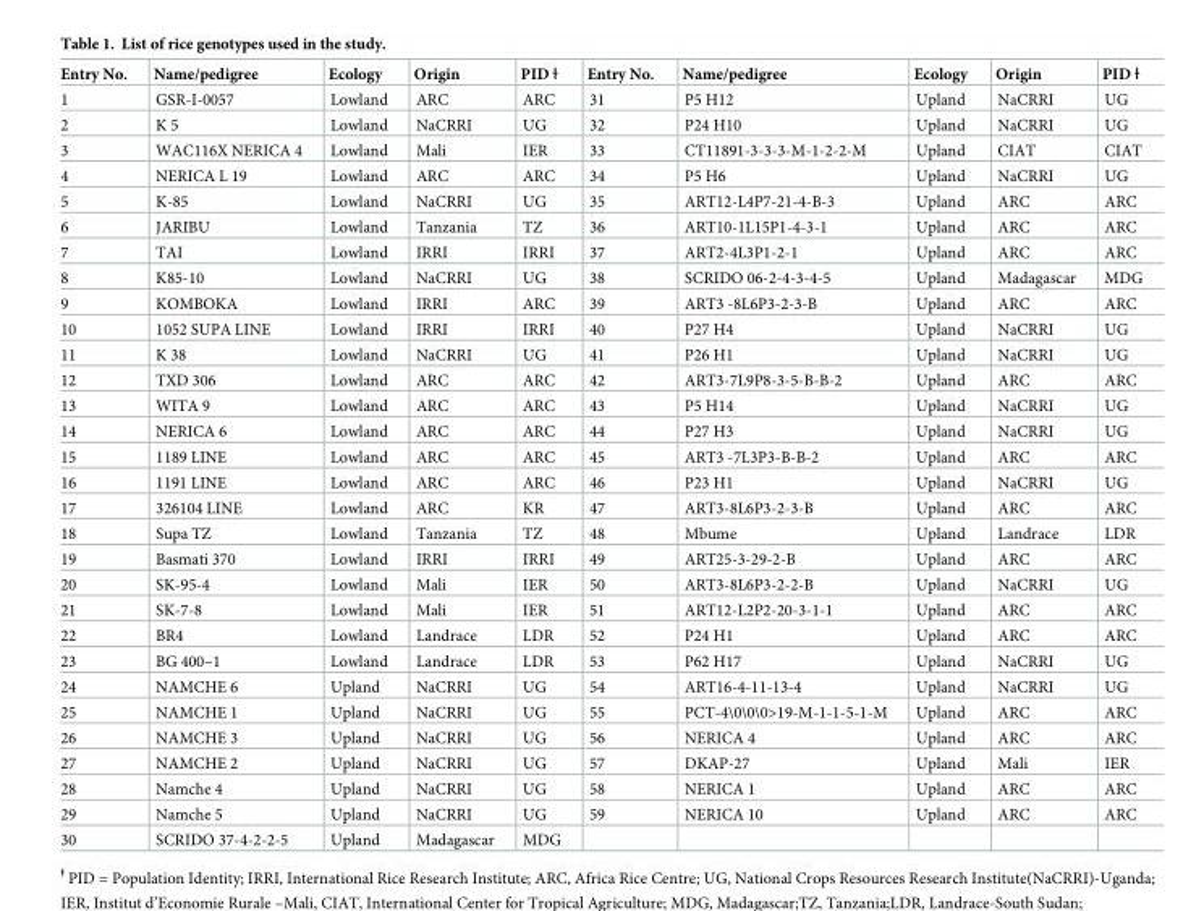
<table><thead><tr><td>Entry No.</td><td>Name/pedigree</td><td>Ecology</td><td>Origin</td><td>PID Ɨ</td><td>Entry No.</td><td>Name/pedigree</td><td>Ecology</td><td>Origin</td><td>PID Ɨ</td></tr></thead><tbody><tr><td>1</td><td>GSR-I-0057</td><td>Lowland</td><td>ARC</td><td>ARC</td><td>31</td><td>P5 H12</td><td>Upland</td><td>NaCRRI</td><td>UG</td></tr><tr><td>2</td><td>K 5</td><td>Lowland</td><td>NaCRRI</td><td>UG</td><td>32</td><td>P24 H10</td><td>Upland</td><td>NaCRRI</td><td>UG</td></tr><tr><td>3</td><td>WAC116X NERICA 4</td><td>Lowland</td><td>Mali</td><td>IER</td><td>33</td><td>CT11891-3-3-3-M-1-2-2-M</td><td>Upland</td><td>CIAT</td><td>CIAT</td></tr><tr><td>4</td><td>NERICA L 19</td><td>Lowland</td><td>ARC</td><td>ARC</td><td>34</td><td>P5 H6</td><td>Upland</td><td>NaCRRI</td><td>UG</td></tr><tr><td>5</td><td>K-85</td><td>Lowland</td><td>NaCRRI</td><td>UG</td><td>35</td><td>ART12-L4P7-21-4-B-3</td><td>Upland</td><td>ARC</td><td>ARC</td></tr><tr><td>6</td><td>JARIBU</td><td>Lowland</td><td>Tanzania</td><td>TZ</td><td>36</td><td>ART10-1L15P1-4-3-1</td><td>Upland</td><td>ARC</td><td>ARC</td></tr><tr><td>7</td><td>TAI</td><td>Lowland</td><td>IRRI</td><td>IRRI</td><td>37</td><td>ART2-4L3P1-2-1</td><td>Upland</td><td>ARC</td><td>ARC</td></tr><tr><td>8</td><td>K85-10</td><td>Lowland</td><td>NaCRRI</td><td>UG</td><td>38</td><td>SCRIDO 06-2-4-3-4-5</td><td>Upland</td><td>Madagascar</td><td>MDG</td></tr><tr><td>9</td><td>KOMBOKA</td><td>Lowland</td><td>IRRI</td><td>ARC</td><td>39</td><td>ART3 -8L6P3-2-3-B</td><td>Upland</td><td>ARC</td><td>ARC</td></tr><tr><td>10</td><td>1052 SUPA LINE</td><td>Lowland</td><td>IRRI</td><td>IRRI</td><td>40</td><td>P27 H4</td><td>Upland</td><td>NaCRRI</td><td>UG</td></tr><tr><td>11</td><td>K 38</td><td>Lowland</td><td>NaCRRI</td><td>UG</td><td>41</td><td>P26 H1</td><td>Upland</td><td>NaCRRI</td><td>UG</td></tr><tr><td>12</td><td>TXD 306</td><td>Lowland</td><td>ARC</td><td>ARC</td><td>42</td><td>ART3-7L9P8-3-5-B-B-2</td><td>Upland</td><td>ARC</td><td>ARC</td></tr><tr><td>13</td><td>WITA 9</td><td>Lowland</td><td>ARC</td><td>ARC</td><td>43</td><td>P5 H14</td><td>Upland</td><td>NaCRRI</td><td>UG</td></tr><tr><td>14</td><td>NERICA 6</td><td>Lowland</td><td>ARC</td><td>ARC</td><td>44</td><td>P27 H3</td><td>Upland</td><td>NaCRRI</td><td>UG</td></tr><tr><td>15</td><td>1189 LINE</td><td>Lowland</td><td>ARC</td><td>ARC</td><td>45</td><td>ART3 -7L3P3-B-B-2</td><td>Upland</td><td>ARC</td><td>ARC</td></tr><tr><td>16</td><td>1191 LINE</td><td>Lowland</td><td>ARC</td><td>ARC</td><td>46</td><td>P23 H1</td><td>Upland</td><td>NaCRRI</td><td>UG</td></tr><tr><td>17</td><td>326104 LINE</td><td>Lowland</td><td>ARC</td><td>KR</td><td>47</td><td>ART3-8L6P3-2-3-B</td><td>Upland</td><td>ARC</td><td>ARC</td></tr><tr><td>18</td><td>Supa TZ</td><td>Lowland</td><td>Tanzania</td><td>TZ</td><td>48</td><td>Mbume</td><td>Upland</td><td>Landrace</td><td>LDR</td></tr><tr><td>19</td><td>Basmati 370</td><td>Lowland</td><td>IRRI</td><td>IRRI</td><td>49</td><td>ART25-3-29-2-B</td><td>Upland</td><td>ARC</td><td>ARC</td></tr><tr><td>20</td><td>SK-95-4</td><td>Lowland</td><td>Mali</td><td>IER</td><td>50</td><td>ART3-8L6P3-2-2-B</td><td>Upland</td><td>NaCRRI</td><td>UG</td></tr><tr><td>21</td><td>SK-7-8</td><td>Lowland</td><td>Mali</td><td>IER</td><td>51</td><td>ART12-L2P2-20-3-1-1</td><td>Upland</td><td>ARC</td><td>ARC</td></tr><tr><td>22</td><td>BR4</td><td>Lowland</td><td>Landrace</td><td>LDR</td><td>52</td><td>P24 H1</td><td>Upland</td><td>ARC</td><td>ARC</td></tr><tr><td>23</td><td>BG 400–1</td><td>Lowland</td><td>Landrace</td><td>LDR</td><td>53</td><td>P62 H17</td><td>Upland</td><td>NaCRRI</td><td>UG</td></tr><tr><td>24</td><td>NAMCHE 6</td><td>Upland</td><td>NaCRRI</td><td>UG</td><td>54</td><td>ART16-4-11-13-4</td><td>Upland</td><td>NaCRRI</td><td>UG</td></tr><tr><td>25</td><td>NAMCHE 1</td><td>Upland</td><td>NaCRRI</td><td>UG</td><td>55</td><td>PCT-4\0\0\0&gt;19-M-1-1-5-1-M</td><td>Upland</td><td>ARC</td><td>ARC</td></tr><tr><td>26</td><td>NAMCHE 3</td><td>Upland</td><td>NaCRRI</td><td>UG</td><td>56</td><td>NERICA 4</td><td>Upland</td><td>ARC</td><td>ARC</td></tr><tr><td>27</td><td>NAMCHE 2</td><td>Upland</td><td>NaCRRI</td><td>UG</td><td>57</td><td>DKAP-27</td><td>Upland</td><td>Mali</td><td>IER</td></tr><tr><td>28</td><td>Namche 4</td><td>Upland</td><td>NaCRRI</td><td>UG</td><td>58</td><td>NERICA 1</td><td>Upland</td><td>ARC</td><td>ARC</td></tr><tr><td>29</td><td>Namche 5</td><td>Upland</td><td>NaCRRI</td><td>UG</td><td>59</td><td>NERICA 10</td><td>Upland</td><td>ARC</td><td>ARC</td></tr><tr><td>30</td><td>SCRIDO 37-4-2-2-5</td><td>Upland</td><td>Madagascar</td><td>MDG</td><td></td><td></td><td></td><td></td><td></td></tr></tbody></table>